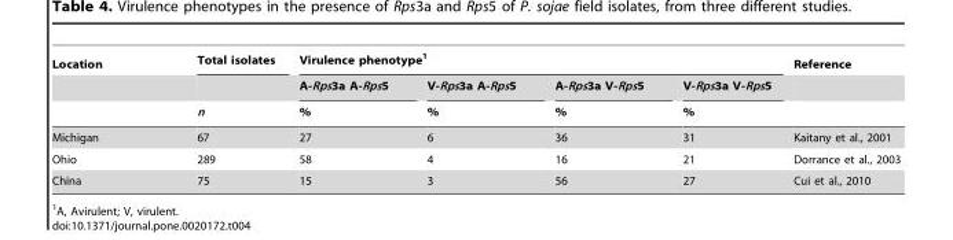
<table><thead><tr><td rowspan="3">Location</td><td rowspan="3">Total isolates n</td><td colspan="4">Virulence phenotype<sup>1</sup></td><td rowspan="3">Reference</td></tr><tr><td rowspan="2">A-Rps3a A-Rps5 %</td><td rowspan="2">V-Rps3a A-Rps5 %</td><td rowspan="2">A-Rps3a V-Rps5 %</td><td rowspan="2">V-Rps3a V-Rps5 %</td></tr><tr></tr></thead><tbody><tr><td>Michigan</td><td>67</td><td>27</td><td>6</td><td>36</td><td>31</td><td>Kaitany et al., 2001</td></tr><tr><td>Ohio</td><td>289</td><td>58</td><td>4</td><td>16</td><td>21</td><td>Dorrance et al., 2003</td></tr><tr><td>China</td><td>75</td><td>15</td><td>3</td><td>56</td><td>27</td><td>Cui et al., 2010</td></tr></tbody></table>